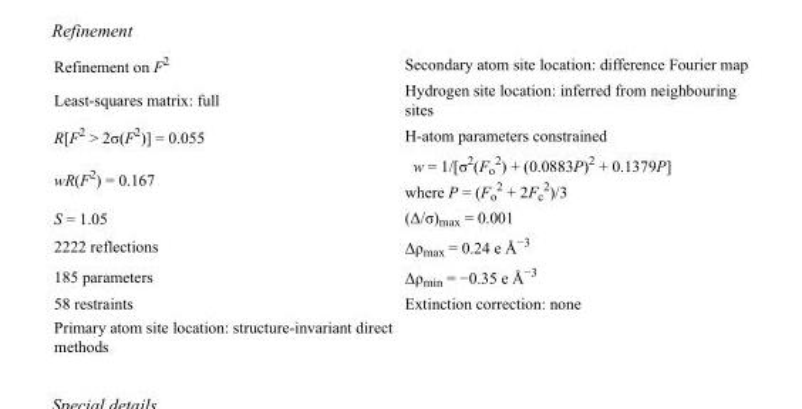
<table><tbody><tr><td>Refinement on F<sup>2</sup></td><td>Secondary atom site location: difference Fourier map</td></tr><tr><td>Least-squares matrix: full</td><td>Hydrogen site location: inferred from neighbouring sites</td></tr><tr><td>R[F<sup>2</sup> &gt; 2σ(F<sup>2</sup>)] = 0.055</td><td>H-atom parameters constrained</td></tr><tr><td>wR(F<sup>2</sup>) = 0.167</td><td>w = 1/[σ<sup>2</sup>(F<sub>o</sub> <sup>2</sup>) + (0.0883P)<sup>2</sup> + 0.1379P] where P = (F<sub>o</sub> <sup>2</sup> + 2F<sub>c</sub> <sup>2</sup>)/3</td></tr><tr><td>S = 1.05</td><td>(Δ/σ)<sub>max</sub> = 0.001</td></tr><tr><td>2222 reflections</td><td>Δρ<sub>max</sub> = 0.24 e Å<sup>−3</sup></td></tr><tr><td>185 parameters</td><td>Δρ<sub>min</sub> = −0.35 e Å<sup>−3</sup></td></tr><tr><td>58 restraints</td><td>Extinction correction: none</td></tr><tr><td>Primary atom site location: structure-invariant direct methods</td><td></td></tr></tbody></table>